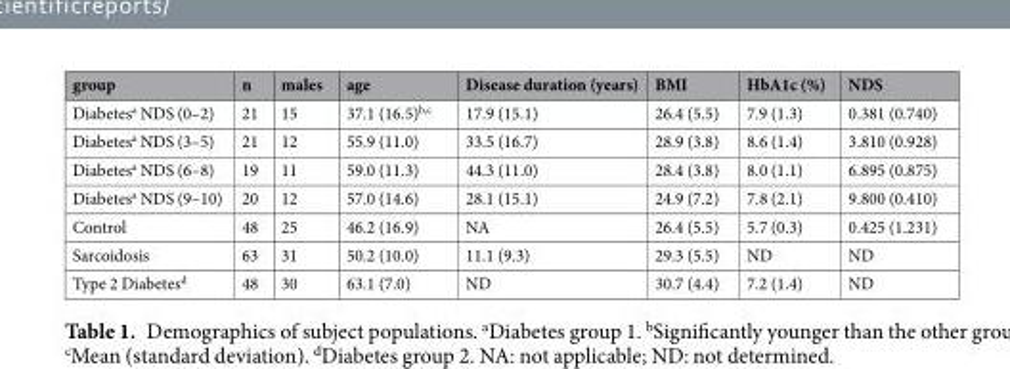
<table><thead><tr><td>group</td><td>n</td><td>males</td><td>age</td><td>Disease duration (years)</td><td>BMI</td><td>HbA1c (%)</td><td>NDS</td></tr></thead><tbody><tr><td>Diabetes<sup>a</sup> NDS (0–2)</td><td>21</td><td>15</td><td>37.1 (16.5)<sup>b,c</sup></td><td>17.9 (15.1)</td><td>26.4 (5.5)</td><td>7.9 (1.3)</td><td>0.381 (0.740)</td></tr><tr><td>Diabetes<sup>a</sup> NDS (3–5)</td><td>21</td><td>12</td><td>55.9 (11.0)</td><td>33.5 (16.7)</td><td>28.9 (3.8)</td><td>8.6 (1.4)</td><td>3.810 (0.928)</td></tr><tr><td>Diabetes<sup>a</sup> NDS (6–8)</td><td>19</td><td>11</td><td>59.0 (11.3)</td><td>44.3 (11.0)</td><td>28.4 (3.8)</td><td>8.0 (1.1)</td><td>6.895 (0.875)</td></tr><tr><td>Diabetes<sup>a</sup> NDS (9–10)</td><td>20</td><td>12</td><td>57.0 (14.6)</td><td>28.1 (15.1)</td><td>24.9 (7.2)</td><td>7.8 (2.1)</td><td>9.800 (0.410)</td></tr><tr><td>Control</td><td>48</td><td>25</td><td>46.2 (16.9)</td><td>NA</td><td>26.4 (5.5)</td><td>5.7 (0.3)</td><td>0.425 (1.231)</td></tr><tr><td>Sarcoidosis</td><td>63</td><td>31</td><td>50.2 (10.0)</td><td>11.1 (9.3)</td><td>29.3 (5.5)</td><td>ND</td><td>ND</td></tr><tr><td>Type 2 Diabetes<sup>d</sup></td><td>48</td><td>30</td><td>63.1 (7.0)</td><td>ND</td><td>30.7 (4.4)</td><td>7.2 (1.4)</td><td>ND</td></tr></tbody></table>